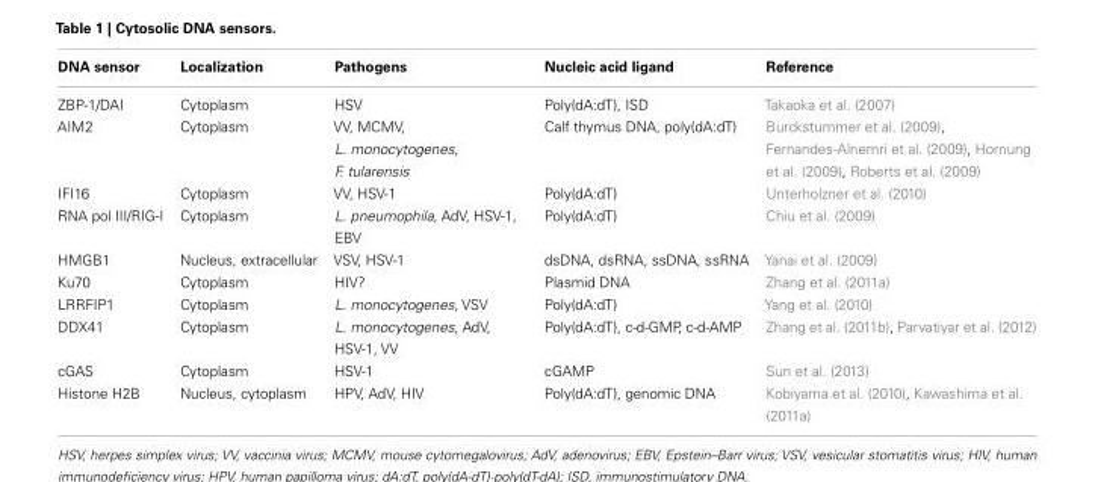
<table><thead><tr><td>DNA sensor</td><td>Localization</td><td>Pathogens</td><td>Nucleic acid ligand</td><td>Reference</td></tr></thead><tbody><tr><td>ZBP-1/DAI</td><td>Cytoplasm</td><td>HSV</td><td>Poly(dA:dT), ISD</td><td>Takaoka et al. (2007)</td></tr><tr><td>AIM2</td><td>Cytoplasm</td><td>VV, MCMV, L. monocytogenes, F. tularensis</td><td>Calf thymus DNA, poly(dA:dT)</td><td>Burckstummer et al. (2009), Fernandes-Alnemri et al. (2009), Hornung et al. (2009), Roberts et al. (2009)</td></tr><tr><td>IFI16</td><td>Cytoplasm</td><td>VV, HSV-1</td><td>Poly(dA:dT)</td><td>Unterholzner et al. (2010)</td></tr><tr><td>RNA pol III/RIG-I</td><td>Cytoplasm</td><td>L. pneumophila, AdV, HSV-1, EBV</td><td>Poly(dA:dT)</td><td>Chiu et al. (2009)</td></tr><tr><td>HMGB1</td><td>Nucleus, extracellular</td><td>VSV, HSV-1</td><td>dsDNA, dsRNA, ssDNA, ssRNA</td><td>Yanai et al. (2009)</td></tr><tr><td>Ku70</td><td>Cytoplasm</td><td>HIV?</td><td>Plasmid DNA</td><td>Zhang et al. (2011a)</td></tr><tr><td>LRRFIP1</td><td>Cytoplasm</td><td>L. monocytogenes, VSV</td><td>Poly(dA:dT)</td><td>Yang et al. (2010)</td></tr><tr><td>DDX41</td><td>Cytoplasm</td><td>L. monocytogenes, AdV, HSV-1, VV</td><td>Poly(dA:dT), c-d-GMP, c-d-AMP</td><td>Zhang et al. (2011b), Parvatiyar et al. (2012)</td></tr><tr><td>cGAS</td><td>Cytoplasm</td><td>HSV-1</td><td>cGAMP</td><td>Sun et al. (2013)</td></tr><tr><td>Histone H2B</td><td>Nucleus, cytoplasm</td><td>HPV, AdV, HIV</td><td>Poly(dA:dT), genomic DNA</td><td>Kobiyama et al. (2010), Kawashima et al. (2011a)</td></tr></tbody></table>